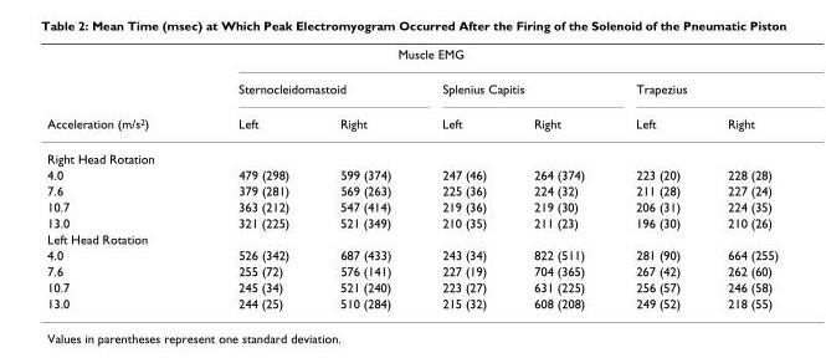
<table><thead><tr><td rowspan="3">Acceleration (m/s<sup>2</sup>)</td><td colspan="4">Muscle EMG</td><td></td><td></td></tr><tr><td colspan="2">Sternocleidomastoid</td><td colspan="2">Splenius Capitis</td><td colspan="2">Trapezius</td></tr><tr><td>Left</td><td>Right</td><td>Left</td><td>Right</td><td>Left</td><td>Right</td></tr></thead><tbody><tr><td colspan="7">Right Head Rotation</td></tr><tr><td>4.0</td><td>479 (298)</td><td>599 (374)</td><td>247 (46)</td><td>264 (374)</td><td>223 (20)</td><td>228 (28)</td></tr><tr><td>7.6</td><td>379 (281)</td><td>569 (263)</td><td>225 (36)</td><td>224 (32)</td><td>211 (28)</td><td>227 (24)</td></tr><tr><td>10.7</td><td>363 (212)</td><td>547 (414)</td><td>219 (36)</td><td>219 (30)</td><td>206 (31)</td><td>224 (35)</td></tr><tr><td>13.0</td><td>321 (225)</td><td>521 (349)</td><td>210 (35)</td><td>211 (23)</td><td>196 (30)</td><td>210 (26)</td></tr><tr><td colspan="7">Left Head Rotation</td></tr><tr><td>4.0</td><td>526 (342)</td><td>687 (433)</td><td>243 (34)</td><td>822 (511)</td><td>281 (90)</td><td>664 (255)</td></tr><tr><td>7.6</td><td>255 (72)</td><td>576 (141)</td><td>227 (19)</td><td>704 (365)</td><td>267 (42)</td><td>262 (60)</td></tr><tr><td>10.7</td><td>245 (34)</td><td>521 (240)</td><td>223 (27)</td><td>631 (225)</td><td>256 (57)</td><td>246 (58)</td></tr><tr><td>13.0</td><td>244 (25)</td><td>510 (284)</td><td>215 (32)</td><td>608 (208)</td><td>249 (52)</td><td>218 (55)</td></tr></tbody></table>